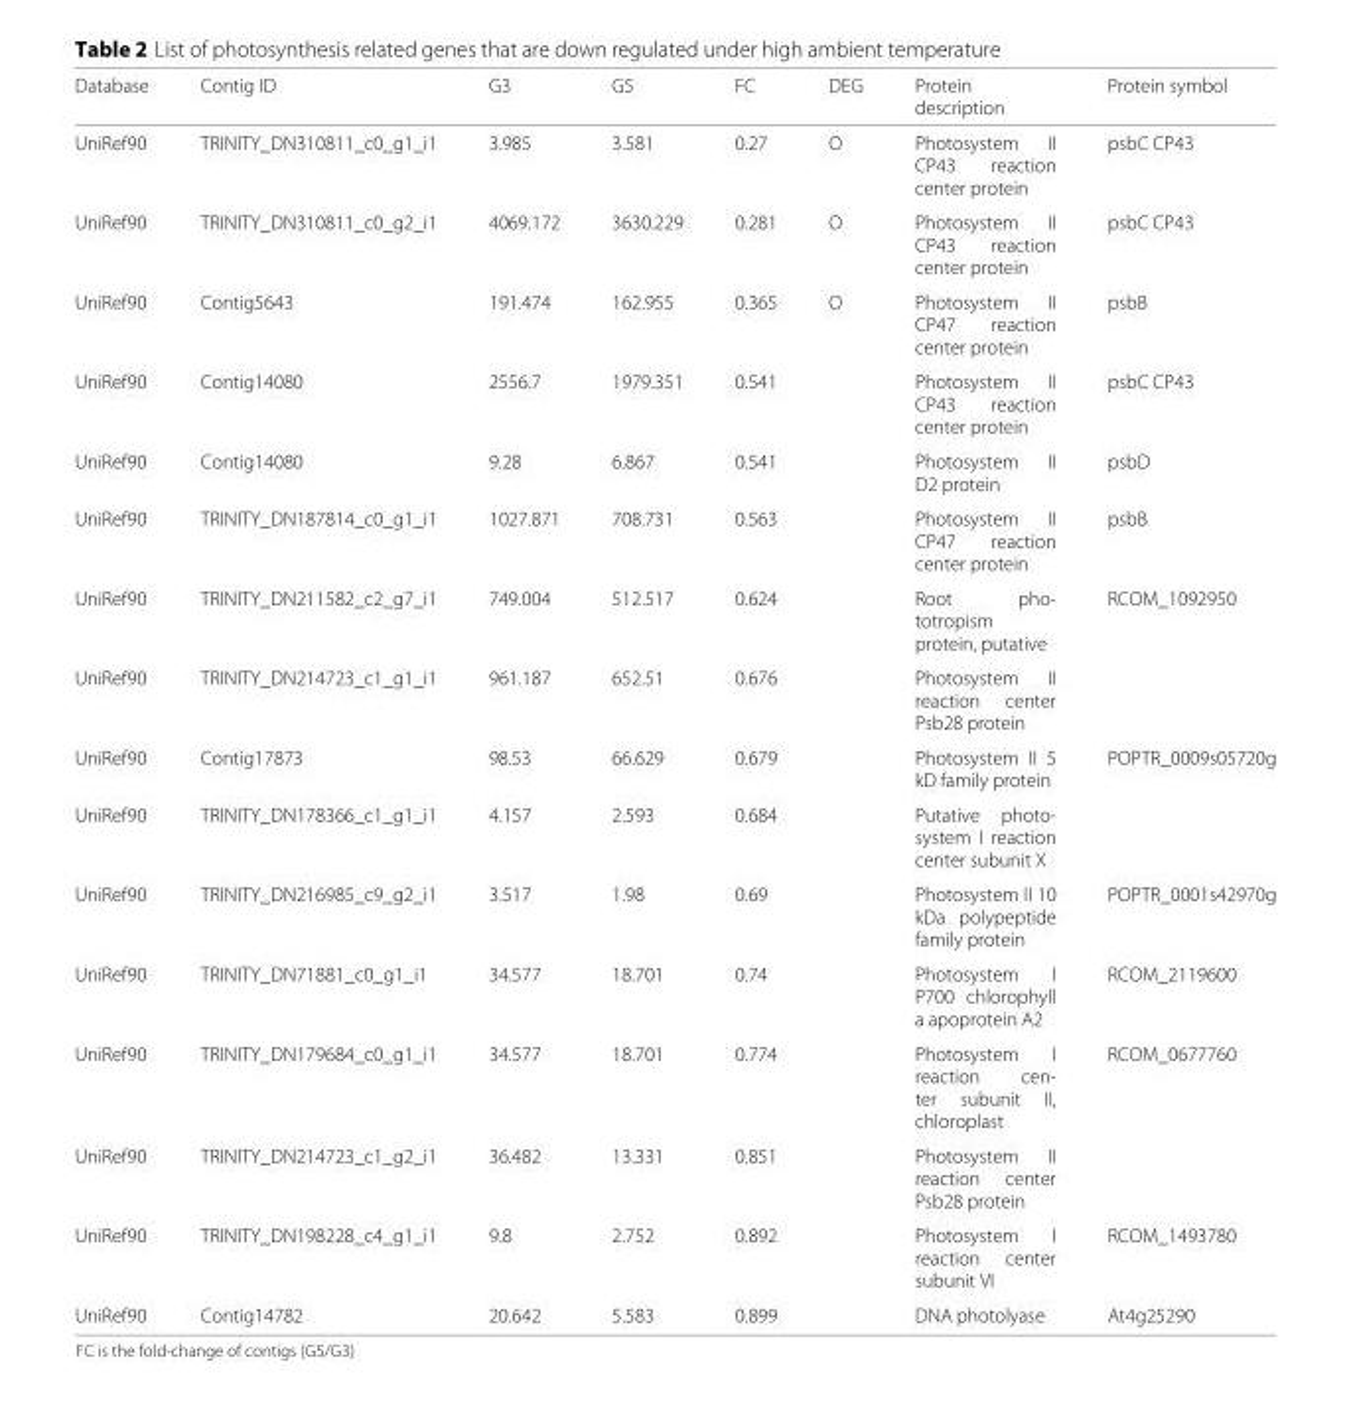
<table><thead><tr><td>Database</td><td>Contig ID</td><td>G3</td><td>G5</td><td>FC</td><td>DEG</td><td>Protein description</td><td>Protein symbol</td></tr></thead><tbody><tr><td>UniRef90</td><td>TRINITY_DN310811_c0_g1_i1</td><td>3.985</td><td>3.581</td><td>0.27</td><td>O</td><td>Photosystem II CP43 reaction center protein</td><td>psbC CP43</td></tr><tr><td>UniRef90</td><td>TRINITY_DN310811_c0_g2_i1</td><td>4069.172</td><td>3630.229</td><td>0.281</td><td>O</td><td>Photosystem II CP43 reaction center protein</td><td>psbC CP43</td></tr><tr><td>UniRef90</td><td>Contig5643</td><td>191.474</td><td>162.955</td><td>0.365</td><td>O</td><td>Photosystem II CP47 reaction center protein</td><td>psbB</td></tr><tr><td>UniRef90</td><td>Contig14080</td><td>2556.7</td><td>1979.351</td><td>0.541</td><td></td><td>Photosystem II CP43 reaction center protein</td><td>psbC CP43</td></tr><tr><td>UniRef90</td><td>Contig14080</td><td>9.28</td><td>6.867</td><td>0.541</td><td></td><td>Photosystem II D2 protein</td><td>psbD</td></tr><tr><td>UniRef90</td><td>TRINITY_DN187814_c0_g1_i1</td><td>1027.871</td><td>708.731</td><td>0.563</td><td></td><td>Photosystem II CP47 reaction center protein</td><td>psbB</td></tr><tr><td>UniRef90</td><td>TRINITY_DN211582_c2_g7_i1</td><td>749.004</td><td>512.517</td><td>0.624</td><td></td><td>Root pho- totropism protein, putative</td><td>RCOM_1092950</td></tr><tr><td>UniRef90</td><td>TRINITY_DN214723_c1_g1_i1</td><td>961.187</td><td>652.51</td><td>0.676</td><td></td><td>Photosystem II reaction center Psb28 protein</td><td></td></tr><tr><td>UniRef90</td><td>Contig17873</td><td>98.53</td><td>66.629</td><td>0.679</td><td></td><td>Photosystem II 5 kD family protein</td><td>POPTR_0009s05720g</td></tr><tr><td>UniRef90</td><td>TRINITY_DN178366_c1_g1_i1</td><td>4.157</td><td>2.593</td><td>0.684</td><td></td><td>Putative photo- system I reaction center subunit X</td><td></td></tr><tr><td>UniRef90</td><td>TRINITY_DN216985_c9_g2_i1</td><td>3.517</td><td>1.98</td><td>0.69</td><td></td><td>Photosystem II 10 kDa polypeptide family protein</td><td>POPTR_0001s42970g</td></tr><tr><td>UniRef90</td><td>TRINITY_DN71881_c0_g1_i1</td><td>34.577</td><td>18.701</td><td>0.74</td><td></td><td>Photosystem I P700 chlorophyll a apoprotein A2</td><td>RCOM_2119600</td></tr><tr><td>UniRef90</td><td>TRINITY_DN179684_c0_g1_i1</td><td>34.577</td><td>18.701</td><td>0.774</td><td></td><td>Photosystem I reaction cen- ter subunit II, chloroplast</td><td>RCOM_0677760</td></tr><tr><td>UniRef90</td><td>TRINITY_DN214723_c1_g2_i1</td><td>36.482</td><td>13.331</td><td>0.851</td><td></td><td>Photosystem II reaction center Psb28 protein</td><td></td></tr><tr><td>UniRef90</td><td>TRINITY_DN198228_c4_g1_i1</td><td>9.8</td><td>2.752</td><td>0.892</td><td></td><td>Photosystem I reaction center subunit VI</td><td>RCOM_1493780</td></tr><tr><td>UniRef90</td><td>Contig14782</td><td>20.642</td><td>5.583</td><td>0.899</td><td></td><td>DNA photolyase</td><td>At4g25290</td></tr></tbody></table>